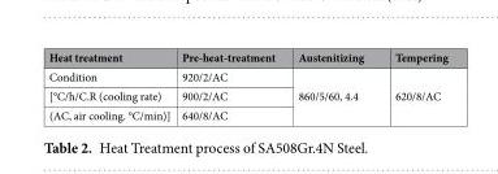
<table><thead><tr><td>Heat treatment</td><td>Pre-heat-treatment</td><td>Austenitizing</td><td>Tempering</td></tr></thead><tbody><tr><td>Condition</td><td>920/2/AC</td><td rowspan="3">860/5/60, 4.4</td><td rowspan="3">620/8/AC</td></tr><tr><td>[°C/h/C.R (cooling rate)</td><td>900/2/AC</td></tr><tr><td>(AC, air cooling. °C/min)]</td><td>640/8/AC</td></tr></tbody></table>